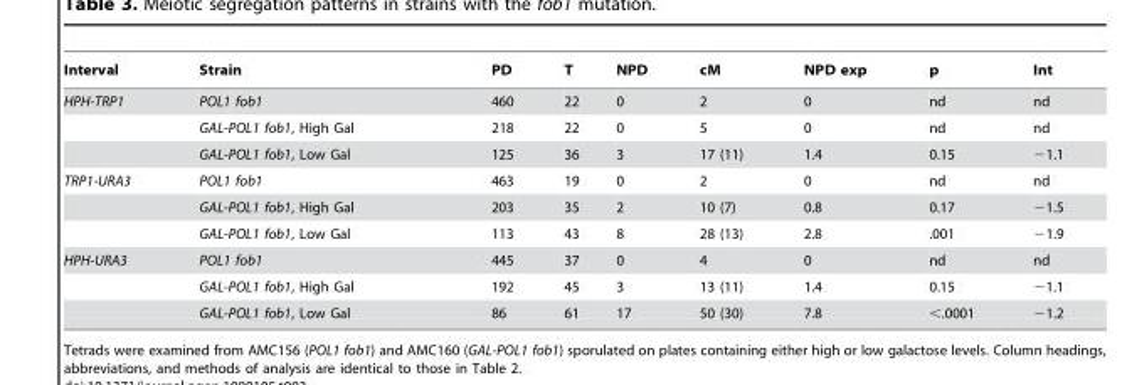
<table><thead><tr><td>Interval</td><td>Strain</td><td>PD</td><td>T</td><td>NPD</td><td>cM</td><td>NPD exp</td><td>p</td><td>Int</td></tr></thead><tbody><tr><td rowspan="3">HPH-TRP1</td><td>POL1 fob1</td><td>460</td><td>22</td><td>0</td><td>2</td><td>0</td><td>nd</td><td>nd</td></tr><tr><td>GAL-POL1 fob1, High Gal</td><td>218</td><td>22</td><td>0</td><td>5</td><td>0</td><td>nd</td><td>nd</td></tr><tr><td>GAL-POL1 fob1, Low Gal</td><td>125</td><td>36</td><td>3</td><td>17 (11)</td><td>1.4</td><td>0.15</td><td>−1.1</td></tr><tr><td rowspan="3">TRP1-URA3</td><td>POL1 fob1</td><td>463</td><td>19</td><td>0</td><td>2</td><td>0</td><td>nd</td><td>nd</td></tr><tr><td>GAL-POL1 fob1, High Gal</td><td>203</td><td>35</td><td>2</td><td>10 (7)</td><td>0.8</td><td>0.17</td><td>−1.5</td></tr><tr><td>GAL-POL1 fob1, Low Gal</td><td>113</td><td>43</td><td>8</td><td>28 (13)</td><td>2.8</td><td>.001</td><td>−1.9</td></tr><tr><td rowspan="3">HPH-URA3</td><td>POL1 fob1</td><td>445</td><td>37</td><td>0</td><td>4</td><td>0</td><td>nd</td><td>nd</td></tr><tr><td>GAL-POL1 fob1, High Gal</td><td>192</td><td>45</td><td>3</td><td>13 (11)</td><td>1.4</td><td>0.15</td><td>−1.1</td></tr><tr><td>GAL-POL1 fob1, Low Gal</td><td>86</td><td>61</td><td>17</td><td>50 (30)</td><td>7.8</td><td>&lt;.0001</td><td>−1.2</td></tr></tbody></table>